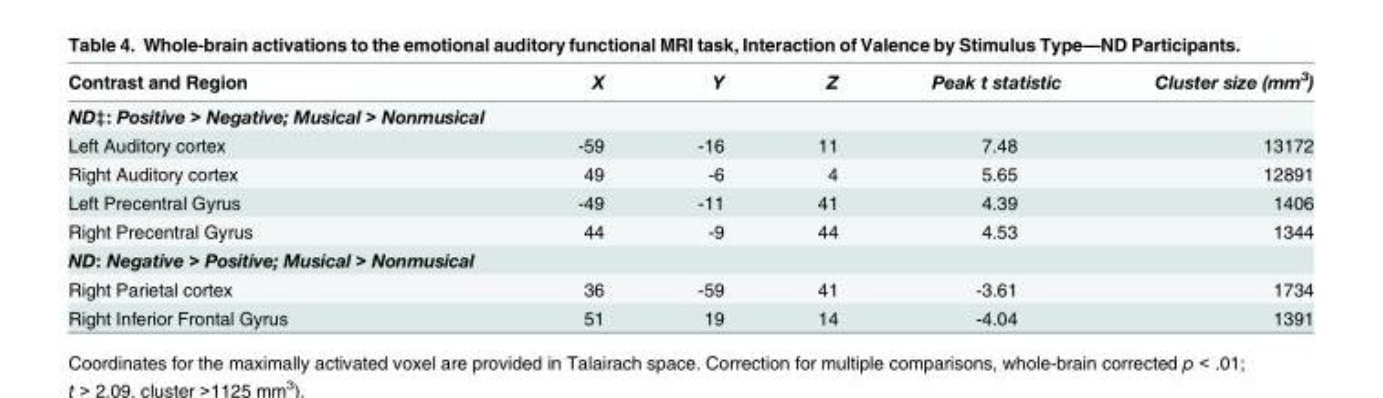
<table><thead><tr><td>Contrast and Region</td><td>X</td><td>Y</td><td>Z</td><td>Peak t statistic</td><td>Cluster size (mm<sup>3</sup>)</td></tr></thead><tbody><tr><td colspan="6">ND‡: Positive &gt; Negative; Musical &gt; Nonmusical</td></tr><tr><td>Left Auditory cortex</td><td>-59</td><td>-16</td><td>11</td><td>7.48</td><td>13172</td></tr><tr><td>Right Auditory cortex</td><td>49</td><td>-6</td><td>4</td><td>5.65</td><td>12891</td></tr><tr><td>Left Precentral Gyrus</td><td>-49</td><td>-11</td><td>41</td><td>4.39</td><td>1406</td></tr><tr><td>Right Precentral Gyrus</td><td>44</td><td>-9</td><td>44</td><td>4.53</td><td>1344</td></tr><tr><td colspan="6">ND: Negative &gt; Positive; Musical &gt; Nonmusical</td></tr><tr><td>Right Parietal cortex</td><td>36</td><td>-59</td><td>41</td><td>-3.61</td><td>1734</td></tr><tr><td>Right Inferior Frontal Gyrus</td><td>51</td><td>19</td><td>14</td><td>-4.04</td><td>1391</td></tr></tbody></table>